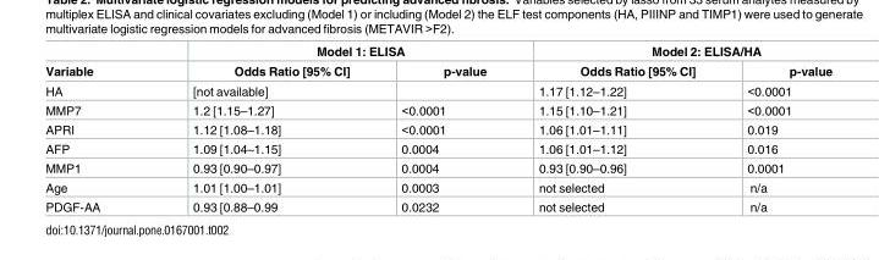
<table><thead><tr><td rowspan="2">Variable</td><td colspan="2">Model 1: ELISA</td><td colspan="2">Model 2: ELISA/HA</td></tr><tr><td>Odds Ratio [95% CI]</td><td>p-value</td><td>Odds Ratio [95% CI]</td><td>p-value</td></tr></thead><tbody><tr><td>HA</td><td>[not available]</td><td></td><td>1.17 [1.12–1.22]</td><td>&lt;0.0001</td></tr><tr><td>MMP7</td><td>1.2 [1.15–1.27]</td><td>&lt;0.0001</td><td>1.15 [1.10–1.21]</td><td>&lt;0.0001</td></tr><tr><td>APRI</td><td>1.12 [1.08–1.18]</td><td>&lt;0.0001</td><td>1.06 [1.01–1.11]</td><td>0.019</td></tr><tr><td>AFP</td><td>1.09 [1.04–1.15]</td><td>0.0004</td><td>1.06 [1.01–1.12]</td><td>0.016</td></tr><tr><td>MMP1</td><td>0.93 [0.90–0.97]</td><td>0.0004</td><td>0.93 [0.90–0.96]</td><td>0.0001</td></tr><tr><td>Age</td><td>1.01 [1.00–1.01]</td><td>0.0003</td><td>not selected</td><td>n/a</td></tr><tr><td>PDGF-AA</td><td>0.93 [0.88–0.99</td><td>0.0232</td><td>not selected</td><td>n/a</td></tr></tbody></table>